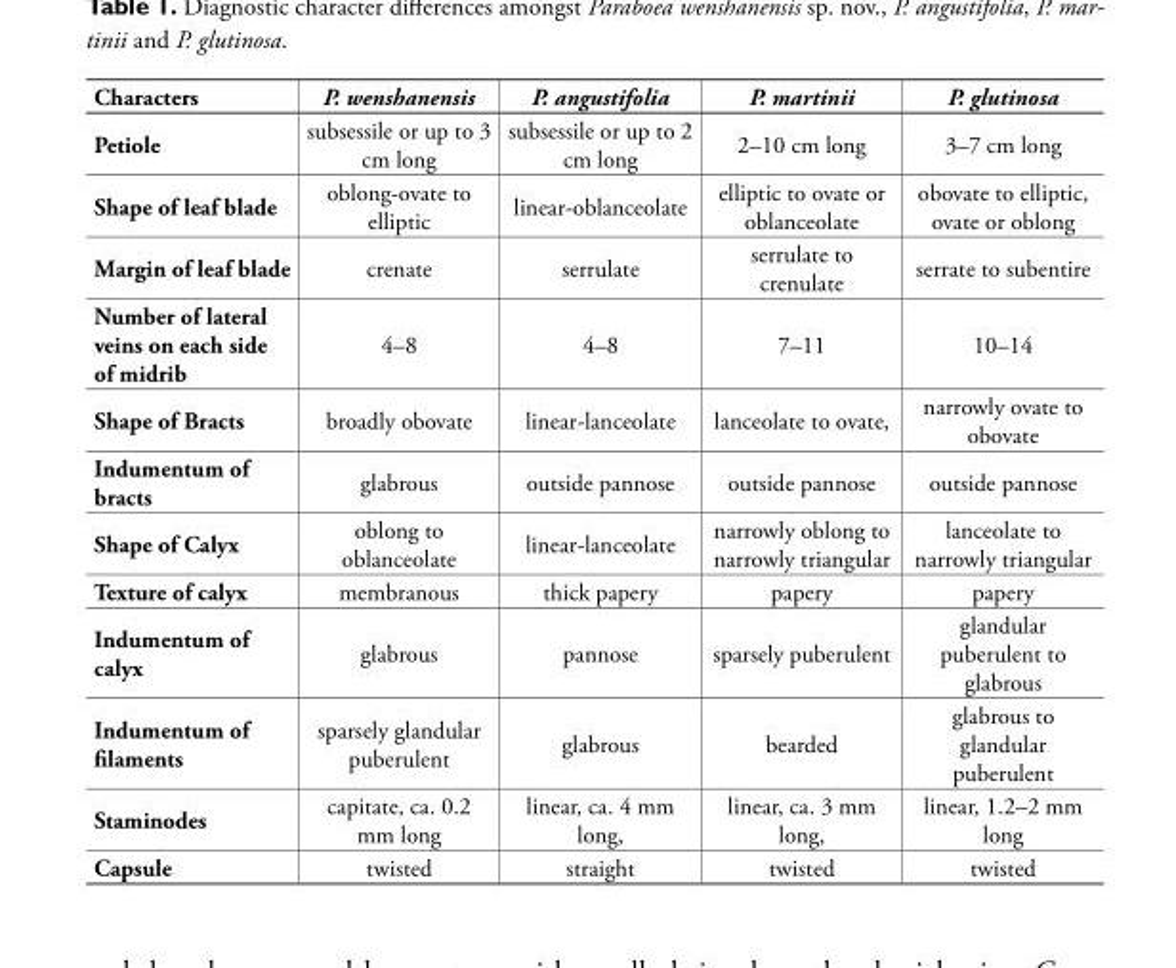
<table><thead><tr><td>Characters</td><td>P. wenshanensis</td><td>P. angustifolia</td><td>P. martinii</td><td>P. glutinosa</td></tr></thead><tbody><tr><td>Petiole</td><td>subsessile or up to 3 cm long</td><td>subsessile or up to 2 cm long</td><td>2–10 cm long</td><td>3–7 cm long</td></tr><tr><td>Shape of leaf blade</td><td>oblong-ovate to elliptic</td><td>linear-oblanceolate</td><td>elliptic to ovate or oblanceolate</td><td>obovate to elliptic, ovate or oblong</td></tr><tr><td>Margin of leaf blade</td><td>crenate</td><td>serrulate</td><td>serrulate to crenulate</td><td>serrate to subentire</td></tr><tr><td>Number of lateral veins on each side of midrib</td><td>4–8</td><td>4–8</td><td>7–11</td><td>10–14</td></tr><tr><td>Shape of Bracts</td><td>broadly obovate</td><td>linear-lanceolate</td><td>lanceolate to ovate,</td><td>narrowly ovate to obovate</td></tr><tr><td>Indumentum of bracts</td><td>glabrous</td><td>outside pannose</td><td>outside pannose</td><td>outside pannose</td></tr><tr><td>Shape of Calyx</td><td>oblong to oblanceolate</td><td>linear-lanceolate</td><td>narrowly oblong to narrowly triangular</td><td>lanceolate to narrowly triangular</td></tr><tr><td>Texture of calyx</td><td>membranous</td><td>thick papery</td><td>papery</td><td>papery</td></tr><tr><td>Indumentum of calyx</td><td>glabrous</td><td>pannose</td><td>sparsely puberulent</td><td>glandular puberulent to glabrous</td></tr><tr><td>Indumentum of filaments</td><td>sparsely glandular puberulent</td><td>glabrous</td><td>bearded</td><td>glabrous to glandular puberulent</td></tr><tr><td>Staminodes</td><td>capitate, ca. 0.2 mm long</td><td>linear, ca. 4 mm long,</td><td>linear, ca. 3 mm long,</td><td>linear, 1.2–2 mm long</td></tr><tr><td>Capsule</td><td>twisted</td><td>straight</td><td>twisted</td><td>twisted</td></tr></tbody></table>